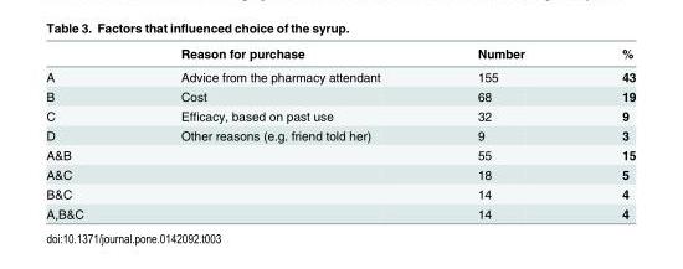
<table><thead><tr><td></td><td>Reason for purchase</td><td>Number</td><td>%</td></tr></thead><tbody><tr><td>A</td><td>Advice from the pharmacy attendant</td><td>155</td><td>43</td></tr><tr><td>B</td><td>Cost</td><td>68</td><td>19</td></tr><tr><td>C</td><td>Efficacy, based on past use</td><td>32</td><td>9</td></tr><tr><td>D</td><td>Other reasons (e.g. friend told her)</td><td>9</td><td>3</td></tr><tr><td>A&amp;B</td><td></td><td>55</td><td>15</td></tr><tr><td>A&amp;C</td><td></td><td>18</td><td>5</td></tr><tr><td>B&amp;C</td><td></td><td>14</td><td>4</td></tr><tr><td>A,B&amp;C</td><td></td><td>14</td><td>4</td></tr></tbody></table>